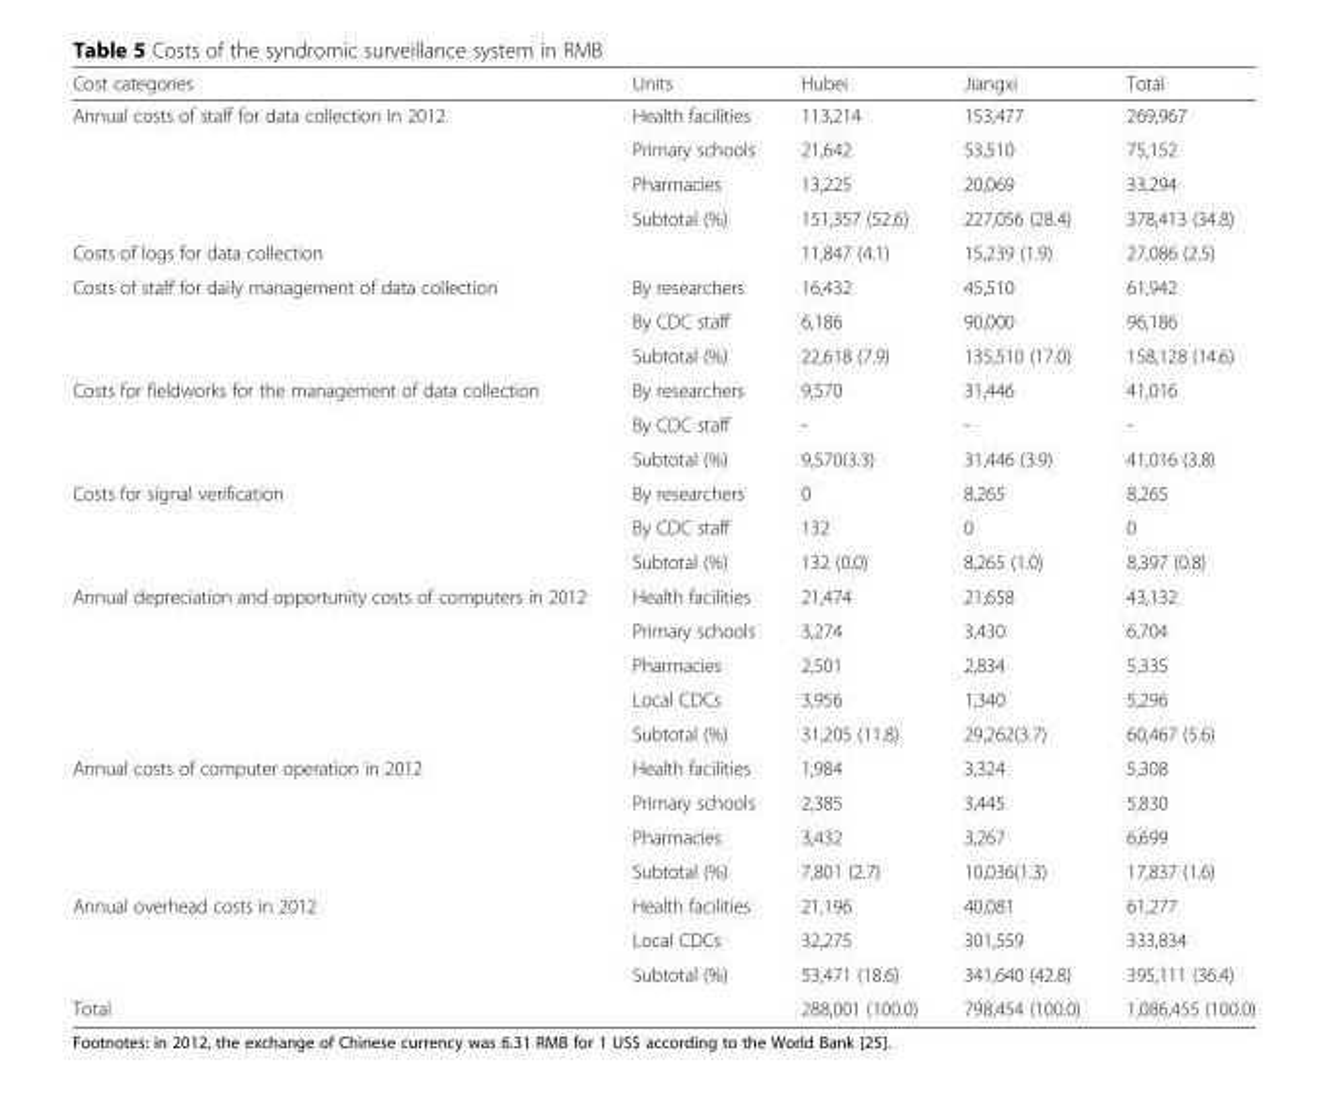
<table><thead><tr><td>Cost categories</td><td>Units</td><td>Hubei</td><td>Jiangxi</td><td>Total</td></tr></thead><tbody><tr><td rowspan="4">Annual costs of staff for data collection In 2012</td><td>Health facilities</td><td>113,214</td><td>153,477</td><td>269,967</td></tr><tr><td>Primary schools</td><td>21,642</td><td>53,510</td><td>75,152</td></tr><tr><td>Pharmacies</td><td>13,225</td><td>20,069</td><td>33,294</td></tr><tr><td>Subtotal (%)</td><td>151,357 (52.6)</td><td>227,056 (28.4)</td><td>378,413 (34.8)</td></tr><tr><td>Costs of logs for data collection</td><td></td><td>11,847 (4.1)</td><td>15,239 (1.9)</td><td>27,086 (2.5)</td></tr><tr><td rowspan="3">Costs of staff for daily management of data collection</td><td>By researchers</td><td>16,432</td><td>45,510</td><td>61,942</td></tr><tr><td>By CDC staff</td><td>6,186</td><td>90,000</td><td>96,186</td></tr><tr><td>Subtotal (%)</td><td>22,618 (7.9)</td><td>135,510 (17.0)</td><td>158,128 (14.6)</td></tr><tr><td rowspan="3">Costs for fieldworks for the management of data collection</td><td>By researchers</td><td>9,570</td><td>31,446</td><td>41,016</td></tr><tr><td>By CDC staff</td><td>-</td><td>-</td><td>-</td></tr><tr><td>Subtotal (%)</td><td>9,570(3.3)</td><td>31,446 (3.9)</td><td>41,016 (3.8)</td></tr><tr><td rowspan="3">Costs for signal verification</td><td>By researchers</td><td>0</td><td>8,265</td><td>8,265</td></tr><tr><td>By CDC staff</td><td>132</td><td>0</td><td>0</td></tr><tr><td>Subtotal (%)</td><td>132 (0.0)</td><td>8,265 (1.0)</td><td>8,397 (0.8)</td></tr><tr><td rowspan="5">Annual depreciation and opportunity costs of computers in 2012</td><td>Health facilities</td><td>21,474</td><td>21,658</td><td>43,132</td></tr><tr><td>Primary schools</td><td>3,274</td><td>3,430</td><td>6,704</td></tr><tr><td>Pharmacies</td><td>2,501</td><td>2,834</td><td>5,335</td></tr><tr><td>Local CDCs</td><td>3,956</td><td>1,340</td><td>5,296</td></tr><tr><td>Subtotal (%)</td><td>31,205 (11.8)</td><td>29,262(3.7)</td><td>60,467 (5.6)</td></tr><tr><td rowspan="4">Annual costs of computer operation in 2012</td><td>Health facilities</td><td>1,984</td><td>3,324</td><td>5,308</td></tr><tr><td>Primary schools</td><td>2,385</td><td>3,445</td><td>5,830</td></tr><tr><td>Pharmacies</td><td>3,432</td><td>3,267</td><td>6,699</td></tr><tr><td>Subtotal (%)</td><td>7,801 (2.7)</td><td>10,036(1.3)</td><td>17,837 (1.6)</td></tr><tr><td rowspan="3">Annual overhead costs in 2012</td><td>Health facilities</td><td>21,196</td><td>40,081</td><td>61,277</td></tr><tr><td>Local CDCs</td><td>32,275</td><td>301,559</td><td>333,834</td></tr><tr><td>Subtotal (%)</td><td>53,471 (18.6)</td><td>341,640 (42.8)</td><td>395,111 (36.4)</td></tr><tr><td colspan="2">Total</td><td>288,001 (100.0)</td><td>798,454 (100.0)</td><td>1,086,455 (100.0)</td></tr></tbody></table>